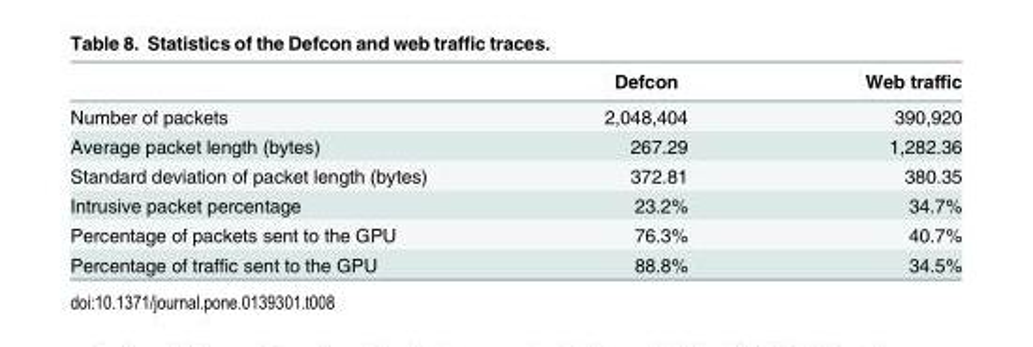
<table><thead><tr><td></td><td>Defcon</td><td>Web traffic</td></tr></thead><tbody><tr><td>Number of packets</td><td>2,048,404</td><td>390,920</td></tr><tr><td>Average packet length (bytes)</td><td>267.29</td><td>1,282.36</td></tr><tr><td>Standard deviation of packet length (bytes)</td><td>372.81</td><td>380.35</td></tr><tr><td>Intrusive packet percentage</td><td>23.2%</td><td>34.7%</td></tr><tr><td>Percentage of packets sent to the GPU</td><td>76.3%</td><td>40.7%</td></tr><tr><td>Percentage of traffic sent to the GPU</td><td>88.8%</td><td>34.5%</td></tr></tbody></table>